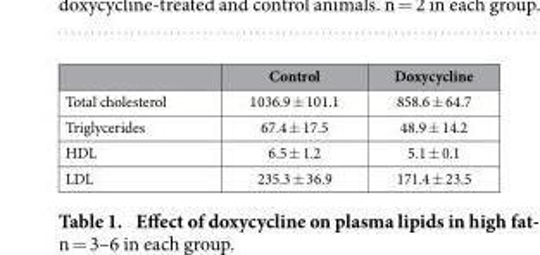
<table><thead><tr><td></td><td>Control</td><td>Doxycycline</td></tr></thead><tbody><tr><td>Total cholesterol</td><td>1036.9 ± 101.1</td><td>858.6 ± 64.7</td></tr><tr><td>Triglycerides</td><td>67.4 ± 17.5</td><td>48.9 ± 14.2</td></tr><tr><td>HDL</td><td>6.5 ± 1.2</td><td>5.1 ± 0.1</td></tr><tr><td>LDL</td><td>235.3 ± 36.9</td><td>171.4 ± 23.5</td></tr></tbody></table>